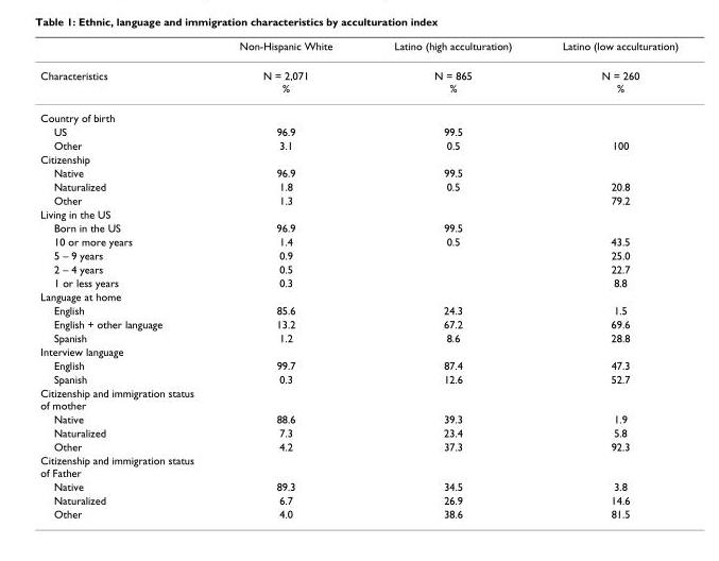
<table><thead><tr><td></td><td>Non-Hispanic White</td><td>Latino (high acculturation)</td><td>Latino (low acculturation)</td></tr></thead><tbody><tr><td>Characteristics</td><td>N = 2,071 %</td><td>N = 865 %</td><td>N = 260 %</td></tr><tr><td colspan="4">Country of birth</td></tr><tr><td>US</td><td>96.9</td><td>99.5</td><td></td></tr><tr><td>Other</td><td>3.1</td><td>0.5</td><td>100</td></tr><tr><td colspan="4">Citizenship</td></tr><tr><td>Native</td><td>96.9</td><td>99.5</td><td></td></tr><tr><td>Naturalized</td><td>1.8</td><td>0.5</td><td>20.8</td></tr><tr><td>Other</td><td>1.3</td><td></td><td>79.2</td></tr><tr><td colspan="4">Living in the US</td></tr><tr><td>Born in the US</td><td>96.9</td><td>99.5</td><td></td></tr><tr><td>10 or more years</td><td>1.4</td><td>0.5</td><td>43.5</td></tr><tr><td>5 – 9 years</td><td>0.9</td><td></td><td>25.0</td></tr><tr><td>2 – 4 years</td><td>0.5</td><td></td><td>22.7</td></tr><tr><td>1 or less years</td><td>0.3</td><td></td><td>8.8</td></tr><tr><td colspan="4">Language at home</td></tr><tr><td>English</td><td>85.6</td><td>24.3</td><td>1.5</td></tr><tr><td>English + other language</td><td>13.2</td><td>67.2</td><td>69.6</td></tr><tr><td>Spanish</td><td>1.2</td><td>8.6</td><td>28.8</td></tr><tr><td colspan="4">Interview language</td></tr><tr><td>English</td><td>99.7</td><td>87.4</td><td>47.3</td></tr><tr><td>Spanish</td><td>0.3</td><td>12.6</td><td>52.7</td></tr><tr><td colspan="4">Citizenship and immigration status of mother</td></tr><tr><td>Native</td><td>88.6</td><td>39.3</td><td>1.9</td></tr><tr><td>Naturalized</td><td>7.3</td><td>23.4</td><td>5.8</td></tr><tr><td>Other</td><td>4.2</td><td>37.3</td><td>92.3</td></tr><tr><td colspan="4">Citizenship and immigration status of Father</td></tr><tr><td>Native</td><td>89.3</td><td>34.5</td><td>3.8</td></tr><tr><td>Naturalized</td><td>6.7</td><td>26.9</td><td>14.6</td></tr><tr><td>Other</td><td>4.0</td><td>38.6</td><td>81.5</td></tr></tbody></table>